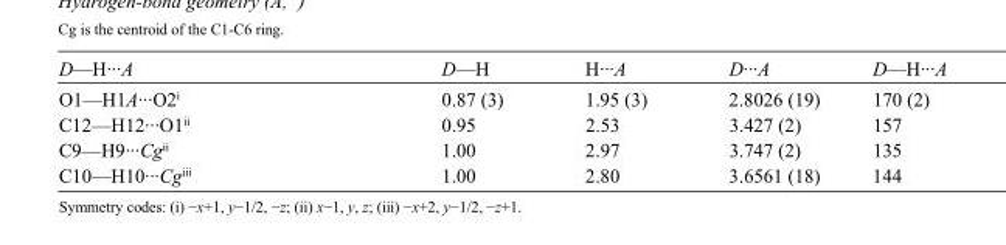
<table><tbody><tr><td>D—H···A</td><td>D—H</td><td>H···A</td><td>D···A</td><td>D—H···A</td></tr><tr><td>O1—H1A···O2<sup>i</sup></td><td>0.87 (3)</td><td>1.95 (3)</td><td>2.8026 (19)</td><td>170 (2)</td></tr><tr><td>C12—H12···O1<sup>ii</sup></td><td>0.95</td><td>2.53</td><td>3.427 (2)</td><td>157</td></tr><tr><td>C9—H9···Cg<sup>ii</sup></td><td>1.00</td><td>2.97</td><td>3.747 (2)</td><td>135</td></tr><tr><td>C10—H10···Cg<sup>iii</sup></td><td>1.00</td><td>2.80</td><td>3.6561 (18)</td><td>144</td></tr></tbody></table>